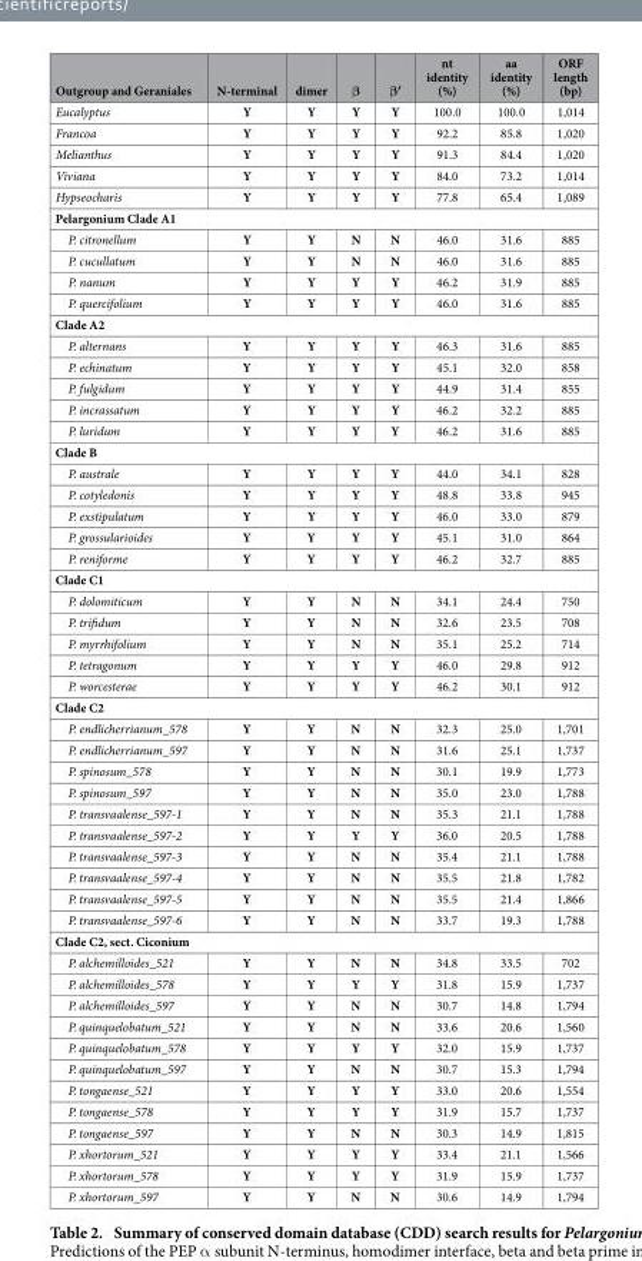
<table><thead><tr><td>Outgroup and Geraniales</td><td>N-terminal</td><td>dimer</td><td>β</td><td>β′</td><td>nt identity (%)</td><td>aa identity (%)</td><td>ORF length (bp)</td></tr></thead><tbody><tr><td>Eucalyptus</td><td>Y</td><td>Y</td><td>Y</td><td>Y</td><td>100.0</td><td>100.0</td><td>1,014</td></tr><tr><td>Francoa</td><td>Y</td><td>Y</td><td>Y</td><td>Y</td><td>92.2</td><td>85.8</td><td>1,020</td></tr><tr><td>Melianthus</td><td>Y</td><td>Y</td><td>Y</td><td>Y</td><td>91.3</td><td>84.4</td><td>1,020</td></tr><tr><td>Viviana</td><td>Y</td><td>Y</td><td>Y</td><td>Y</td><td>84.0</td><td>73.2</td><td>1,014</td></tr><tr><td>Hypseocharis</td><td>Y</td><td>Y</td><td>Y</td><td>Y</td><td>77.8</td><td>65.4</td><td>1,089</td></tr><tr><td colspan="8">Pelargonium Clade A1</td></tr><tr><td>P. citronellum</td><td>Y</td><td>Y</td><td>N</td><td>N</td><td>46.0</td><td>31.6</td><td>885</td></tr><tr><td>P. cucullatum</td><td>Y</td><td>Y</td><td>N</td><td>N</td><td>46.0</td><td>31.6</td><td>885</td></tr><tr><td>P. nanum</td><td>Y</td><td>Y</td><td>Y</td><td>Y</td><td>46.2</td><td>31.9</td><td>885</td></tr><tr><td>P. quercifolium</td><td>Y</td><td>Y</td><td>Y</td><td>Y</td><td>46.0</td><td>31.6</td><td>885</td></tr><tr><td colspan="8">Clade A2</td></tr><tr><td>P. alternans</td><td>Y</td><td>Y</td><td>Y</td><td>Y</td><td>46.3</td><td>31.6</td><td>885</td></tr><tr><td>P. echinatum</td><td>Y</td><td>Y</td><td>Y</td><td>Y</td><td>45.1</td><td>32.0</td><td>858</td></tr><tr><td>P. fulgidum</td><td>Y</td><td>Y</td><td>Y</td><td>Y</td><td>44.9</td><td>31.4</td><td>855</td></tr><tr><td>P. incrassatum</td><td>Y</td><td>Y</td><td>Y</td><td>Y</td><td>46.2</td><td>32.2</td><td>885</td></tr><tr><td>P. luridum</td><td>Y</td><td>Y</td><td>Y</td><td>Y</td><td>46.2</td><td>31.6</td><td>885</td></tr><tr><td colspan="8">Clade B</td></tr><tr><td>P. australe</td><td>Y</td><td>Y</td><td>Y</td><td>Y</td><td>44.0</td><td>34.1</td><td>828</td></tr><tr><td>P. cotyledonis</td><td>Y</td><td>Y</td><td>Y</td><td>Y</td><td>48.8</td><td>33.8</td><td>945</td></tr><tr><td>P. exstipulatum</td><td>Y</td><td>Y</td><td>Y</td><td>Y</td><td>46.0</td><td>33.0</td><td>879</td></tr><tr><td>P. grossularioides</td><td>Y</td><td>Y</td><td>Y</td><td>Y</td><td>45.1</td><td>31.0</td><td>864</td></tr><tr><td>P. reniforme</td><td>Y</td><td>Y</td><td>Y</td><td>Y</td><td>46.2</td><td>32.7</td><td>885</td></tr><tr><td colspan="8">Clade C1</td></tr><tr><td>P. dolomiticum</td><td>Y</td><td>Y</td><td>N</td><td>N</td><td>34.1</td><td>24.4</td><td>750</td></tr><tr><td>P. trifidum</td><td>Y</td><td>Y</td><td>N</td><td>N</td><td>32.6</td><td>23.5</td><td>708</td></tr><tr><td>P. myrrhifolium</td><td>Y</td><td>Y</td><td>N</td><td>N</td><td>35.1</td><td>25.2</td><td>714</td></tr><tr><td>P. tetragonum</td><td>Y</td><td>Y</td><td>Y</td><td>Y</td><td>46.0</td><td>29.8</td><td>912</td></tr><tr><td>P. worcesterae</td><td>Y</td><td>Y</td><td>Y</td><td>Y</td><td>46.2</td><td>30.1</td><td>912</td></tr><tr><td colspan="8">Clade C2</td></tr><tr><td>P. endlicherrianum_578</td><td>Y</td><td>Y</td><td>N</td><td>N</td><td>32.3</td><td>25.0</td><td>1,701</td></tr><tr><td>P. endlicherrianum_597</td><td>Y</td><td>Y</td><td>N</td><td>N</td><td>31.6</td><td>25.1</td><td>1,737</td></tr><tr><td>P. spinosum_578</td><td>Y</td><td>Y</td><td>N</td><td>N</td><td>30.1</td><td>19.9</td><td>1,773</td></tr><tr><td>P. spinosum_597</td><td>Y</td><td>Y</td><td>N</td><td>N</td><td>35.0</td><td>23.0</td><td>1,788</td></tr><tr><td>P. transvaalense_597-1</td><td>Y</td><td>Y</td><td>N</td><td>N</td><td>35.3</td><td>21.1</td><td>1,788</td></tr><tr><td>P. transvaalense_597-2</td><td>Y</td><td>Y</td><td>Y</td><td>Y</td><td>36.0</td><td>20.5</td><td>1,788</td></tr><tr><td>P. transvaalense_597-3</td><td>Y</td><td>Y</td><td>N</td><td>N</td><td>35.4</td><td>21.1</td><td>1,788</td></tr><tr><td>P. transvaalense_597-4</td><td>Y</td><td>Y</td><td>N</td><td>N</td><td>35.5</td><td>21.8</td><td>1,782</td></tr><tr><td>P. transvaalense_597-5</td><td>Y</td><td>Y</td><td>N</td><td>N</td><td>35.5</td><td>21.4</td><td>1,866</td></tr><tr><td>P. transvaalense_597-6</td><td>Y</td><td>Y</td><td>N</td><td>N</td><td>33.7</td><td>19.3</td><td>1,788</td></tr><tr><td colspan="8">Clade C2, sect. Ciconium</td></tr><tr><td>P. alchemilloides_521</td><td>Y</td><td>Y</td><td>N</td><td>N</td><td>34.8</td><td>33.5</td><td>702</td></tr><tr><td>P. alchemilloides_578</td><td>Y</td><td>Y</td><td>Y</td><td>Y</td><td>31.8</td><td>15.9</td><td>1,737</td></tr><tr><td>P. alchemilloides_597</td><td>Y</td><td>Y</td><td>N</td><td>N</td><td>30.7</td><td>14.8</td><td>1,794</td></tr><tr><td>P. quinquelobatum_521</td><td>Y</td><td>Y</td><td>N</td><td>N</td><td>33.6</td><td>20.6</td><td>1,560</td></tr><tr><td>P. quinquelobatum_578</td><td>Y</td><td>Y</td><td>Y</td><td>Y</td><td>32.0</td><td>15.9</td><td>1,737</td></tr><tr><td>P. quinquelobatum_597</td><td>Y</td><td>Y</td><td>N</td><td>N</td><td>30.7</td><td>15.3</td><td>1,794</td></tr><tr><td>P. tongaense_521</td><td>Y</td><td>Y</td><td>Y</td><td>Y</td><td>33.0</td><td>20.6</td><td>1,554</td></tr><tr><td>P. tongaense_578</td><td>Y</td><td>Y</td><td>Y</td><td>Y</td><td>31.9</td><td>15.7</td><td>1,737</td></tr><tr><td>P. tongaense_597</td><td>Y</td><td>Y</td><td>N</td><td>N</td><td>30.3</td><td>14.9</td><td>1,815</td></tr><tr><td>P. xhortorum_521</td><td>Y</td><td>Y</td><td>Y</td><td>Y</td><td>33.4</td><td>21.1</td><td>1,566</td></tr><tr><td>P. xhortorum_578</td><td>Y</td><td>Y</td><td>Y</td><td>Y</td><td>31.9</td><td>15.9</td><td>1,737</td></tr><tr><td>P. xhortorum_597</td><td>Y</td><td>Y</td><td>N</td><td>N</td><td>30.6</td><td>14.9</td><td>1,794</td></tr></tbody></table>